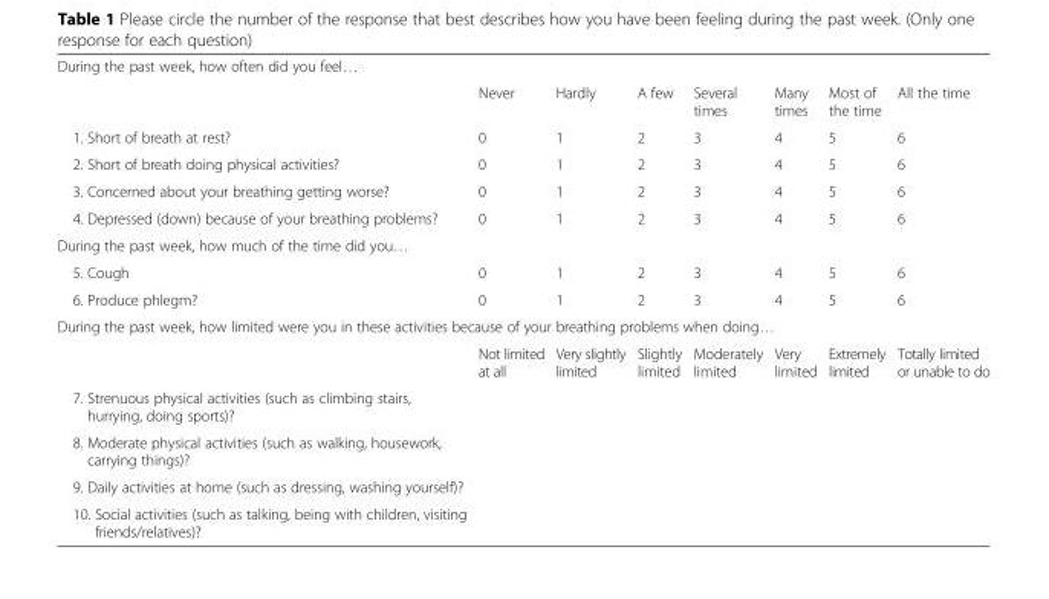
<table><tbody><tr><td colspan="8">During the past week, how often did you feel…</td></tr><tr><td></td><td>Never</td><td>Hardly</td><td>A few</td><td>Several times</td><td>Many times</td><td>Most of the time</td><td>All the time</td></tr><tr><td>1. Short of breath at rest?</td><td>0</td><td>1</td><td>2</td><td>3</td><td>4</td><td>5</td><td>6</td></tr><tr><td>2. Short of breath doing physical activities?</td><td>0</td><td>1</td><td>2</td><td>3</td><td>4</td><td>5</td><td>6</td></tr><tr><td>3. Concerned about your breathing getting worse?</td><td>0</td><td>1</td><td>2</td><td>3</td><td>4</td><td>5</td><td>6</td></tr><tr><td>4. Depressed (down) because of your breathing problems?</td><td>0</td><td>1</td><td>2</td><td>3</td><td>4</td><td>5</td><td>6</td></tr><tr><td colspan="8">During the past week, how much of the time did you…</td></tr><tr><td>5. Cough</td><td>0</td><td>1</td><td>2</td><td>3</td><td>4</td><td>5</td><td>6</td></tr><tr><td>6. Produce phlegm?</td><td>0</td><td>1</td><td>2</td><td>3</td><td>4</td><td>5</td><td>6</td></tr><tr><td colspan="8">During the past week, how limited were you in these activities because of your breathing problems when doing…</td></tr><tr><td></td><td>Not limited at all</td><td>Very slightly limited</td><td>Slightly limited</td><td>Moderately limited</td><td>Very limited</td><td>Extremely limited</td><td>Totally limited or unable to do</td></tr><tr><td colspan="8">7. Strenuous physical activities (such as climbing stairs, hurrying, doing sports)?</td></tr><tr><td colspan="8">8. Moderate physical activities (such as walking, housework, carrying things)?</td></tr><tr><td colspan="8">9. Daily activities at home (such as dressing, washing yourself)?</td></tr><tr><td>10. Social activities (such as talking, being with children, visiting friends/relatives)?</td><td></td><td></td><td></td><td></td><td></td><td></td><td></td></tr></tbody></table>